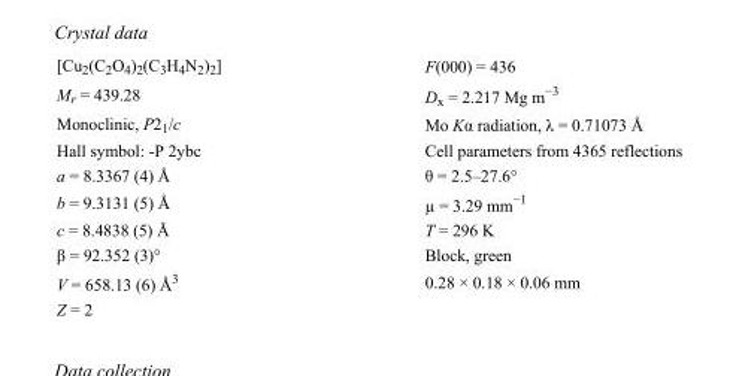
<table><tbody><tr><td>[Cu<sub>2</sub>(C<sub>2</sub>O<sub>4</sub>)<sub>2</sub>(C<sub>3</sub>H<sub>4</sub>N<sub>2</sub>)<sub>2</sub>]</td><td>F(000) = 436</td></tr><tr><td>M<sub>r</sub> = 439.28</td><td>D<sub>x</sub> = 2.217 Mg m<sup>−3</sup></td></tr><tr><td>Monoclinic, P2<sub>1</sub>/c</td><td>Mo Kα radiation, λ = 0.71073 Å</td></tr><tr><td>Hall symbol: -P 2ybc</td><td>Cell parameters from 4365 reflections</td></tr><tr><td>a = 8.3367 (4) Å</td><td>θ = 2.5–27.6°</td></tr><tr><td>b = 9.3131 (5) Å</td><td>µ = 3.29 mm<sup>−1</sup></td></tr><tr><td>c = 8.4838 (5) Å</td><td>T = 296 K</td></tr><tr><td>β = 92.352 (3)°</td><td>Block, green</td></tr><tr><td>V = 658.13 (6) Å<sup>3</sup></td><td>0.28 × 0.18 × 0.06 mm</td></tr><tr><td>Z = 2</td><td></td></tr></tbody></table>